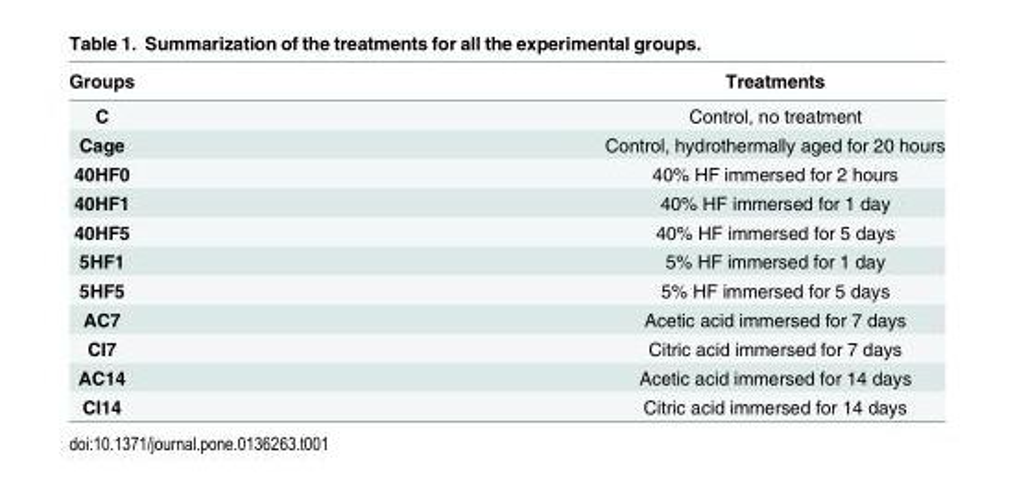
<table><thead><tr><td>Groups</td><td>Treatments</td></tr></thead><tbody><tr><td>C</td><td>Control, no treatment</td></tr><tr><td>Cage</td><td>Control, hydrothermally aged for 20 hours</td></tr><tr><td>40HF0</td><td>40% HF immersed for 2 hours</td></tr><tr><td>40HF1</td><td>40% HF immersed for 1 day</td></tr><tr><td>40HF5</td><td>40% HF immersed for 5 days</td></tr><tr><td>5HF1</td><td>5% HF immersed for 1 day</td></tr><tr><td>5HF5</td><td>5% HF immersed for 5 days</td></tr><tr><td>AC7</td><td>Acetic acid immersed for 7 days</td></tr><tr><td>CI7</td><td>Citric acid immersed for 7 days</td></tr><tr><td>AC14</td><td>Acetic acid immersed for 14 days</td></tr><tr><td>CI14</td><td>Citric acid immersed for 14 days</td></tr></tbody></table>